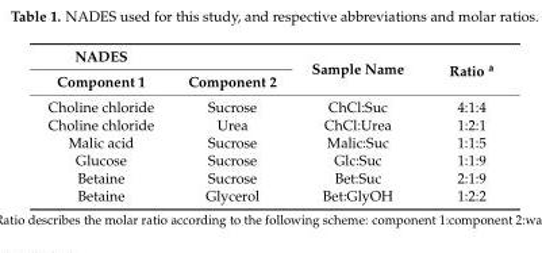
<table><thead><tr><td rowspan="2">NADES Component 1</td><td rowspan="2">Component 2</td><td rowspan="2">Sample Name</td><td rowspan="2">Ratio <sup>a</sup></td></tr><tr></tr></thead><tbody><tr><td>Choline chloride</td><td>Sucrose</td><td>ChCl:Suc</td><td>4:1:4</td></tr><tr><td>Choline chloride</td><td>Urea</td><td>ChCl:Urea</td><td>1:2:1</td></tr><tr><td>Malic acid</td><td>Sucrose</td><td>Malic:Suc</td><td>1:1:5</td></tr><tr><td>Glucose</td><td>Sucrose</td><td>Glc:Suc</td><td>1:1:9</td></tr><tr><td>Betaine</td><td>Sucrose</td><td>Bet:Suc</td><td>2:1:9</td></tr><tr><td>Betaine</td><td>Glycerol</td><td>Bet:GlyOH</td><td>1:2:2</td></tr></tbody></table>